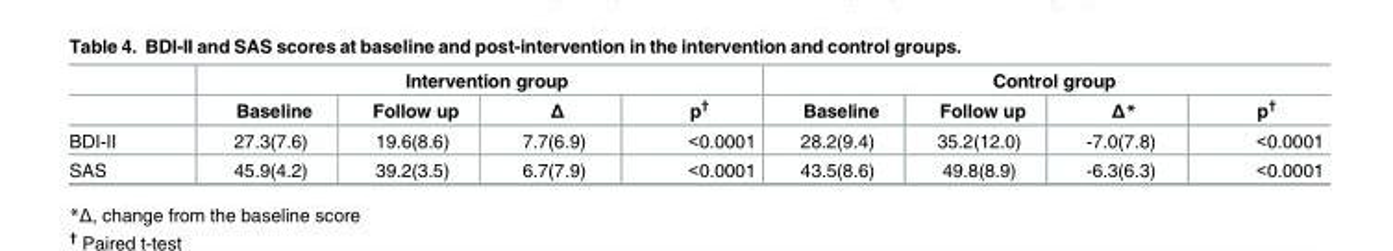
<table><thead><tr><td rowspan="2"></td><td colspan="4">Intervention group</td><td colspan="4">Control group</td></tr><tr><td>Baseline</td><td>Follow up</td><td>Δ</td><td>p<sup>†</sup></td><td>Baseline</td><td>Follow up</td><td>Δ*</td><td>p<sup>†</sup></td></tr></thead><tbody><tr><td>BDI-II</td><td>27.3(7.6)</td><td>19.6(8.6)</td><td>7.7(6.9)</td><td>&lt;0.0001</td><td>28.2(9.4)</td><td>35.2(12.0)</td><td>-7.0(7.8)</td><td>&lt;0.0001</td></tr><tr><td>SAS</td><td>45.9(4.2)</td><td>39.2(3.5)</td><td>6.7(7.9)</td><td>&lt;0.0001</td><td>43.5(8.6)</td><td>49.8(8.9)</td><td>-6.3(6.3)</td><td>&lt;0.0001</td></tr></tbody></table>